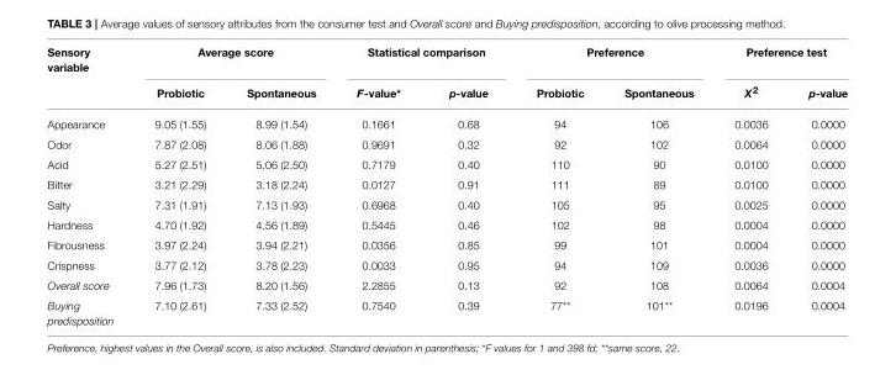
<table><thead><tr><td rowspan="2">Sensory variable</td><td colspan="2">Average score</td><td colspan="2">Statistical comparison</td><td colspan="2">Preference</td><td colspan="2">Preference test</td></tr><tr><td>Probiotic</td><td>Spontaneous</td><td>F-value*</td><td>p-value</td><td>Probiotic</td><td>Spontaneous</td><td>X<sup>2</sup></td><td>p-value</td></tr></thead><tbody><tr><td>Appearance</td><td>9.05 (1.55)</td><td>8.99 (1.54)</td><td>0.1661</td><td>0.68</td><td>94</td><td>106</td><td>0.0036</td><td>0.0000</td></tr><tr><td>Odor</td><td>7.87 (2.08)</td><td>8.06 (1.88)</td><td>0.9691</td><td>0.32</td><td>92</td><td>102</td><td>0.0064</td><td>0.0000</td></tr><tr><td>Acid</td><td>5.27 (2.51)</td><td>5.06 (2.50)</td><td>0.7179</td><td>0.40</td><td>110</td><td>90</td><td>0.0100</td><td>0.0000</td></tr><tr><td>Bitter</td><td>3.21 (2.29)</td><td>3.18 (2.24)</td><td>0.0127</td><td>0.91</td><td>111</td><td>89</td><td>0.0100</td><td>0.0000</td></tr><tr><td>Salty</td><td>7.31 (1.91)</td><td>7.13 (1.93)</td><td>0.6968</td><td>0.40</td><td>105</td><td>95</td><td>0.0025</td><td>0.0000</td></tr><tr><td>Hardness</td><td>4.70 (1.92)</td><td>4.56 (1.89)</td><td>0.5445</td><td>0.46</td><td>102</td><td>98</td><td>0.0004</td><td>0.0000</td></tr><tr><td>Fibrousness</td><td>3.97 (2.24)</td><td>3.94 (2.21)</td><td>0.0356</td><td>0.85</td><td>99</td><td>101</td><td>0.0004</td><td>0.0000</td></tr><tr><td>Crispness</td><td>3.77 (2.12)</td><td>3.78 (2.23)</td><td>0.0033</td><td>0.95</td><td>94</td><td>109</td><td>0.0036</td><td>0.0000</td></tr><tr><td>Overall score</td><td>7.96 (1.73)</td><td>8.20 (1.56)</td><td>2.2855</td><td>0.13</td><td>92</td><td>108</td><td>0.0064</td><td>0.0004</td></tr><tr><td>Buying predisposition</td><td>7.10 (2.61)</td><td>7.33 (2.52)</td><td>0.7540</td><td>0.39</td><td>77**</td><td>101**</td><td>0.0196</td><td>0.0004</td></tr></tbody></table>